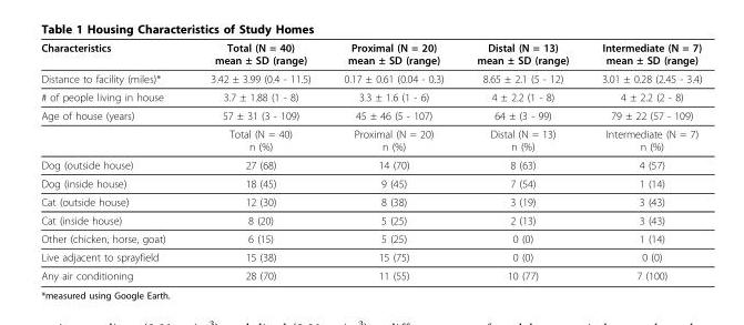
<table><thead><tr><td>Characteristics</td><td>Total (N = 40) mean ± SD (range)</td><td>Proximal (N = 20) mean ± SD (range)</td><td>Distal (N = 13) mean ± SD (range)</td><td>Intermediate (N = 7) mean ± SD (range)</td></tr></thead><tbody><tr><td>Distance to facility (miles)*</td><td>3.42 ± 3.99 (0.4 - 11.5)</td><td>0.17 ± 0.61 (0.04 - 0.3)</td><td>8.65 ± 2.1 (5 - 12)</td><td>3.01 ± 0.28 (2.45 - 3.4)</td></tr><tr><td># of people living in house</td><td>3.7 ± 1.88 (1 - 8)</td><td>3.3 ± 1.6 (1 - 6)</td><td>4 ± 2.2 (1 - 8)</td><td>4 ± 2.2 (2 - 8)</td></tr><tr><td rowspan="2">Age of house (years)</td><td>57 ± 31 (3 - 109)</td><td>45 ± 46 (5 - 107)</td><td>64 ± (3 - 99)</td><td>79 ± 22 (57 - 109)</td></tr><tr><td>Total (N = 40) n (%)</td><td>Proximal (N = 20) n (%)</td><td>Distal (N = 13) n (%)</td><td>Intermediate (N = 7) n (%)</td></tr><tr><td>Dog (outside house)</td><td>27 (68)</td><td>14 (70)</td><td>8 (63)</td><td>4 (57)</td></tr><tr><td>Dog (inside house)</td><td>18 (45)</td><td>9 (45)</td><td>7 (54)</td><td>1 (14)</td></tr><tr><td>Cat (outside house)</td><td>12 (30)</td><td>8 (38)</td><td>3 (19)</td><td>3 (43)</td></tr><tr><td>Cat (inside house)</td><td>8 (20)</td><td>5 (25)</td><td>2 (13)</td><td>3 (43)</td></tr><tr><td>Other (chicken, horse, goat)</td><td>6 (15)</td><td>5 (25)</td><td>0 (0)</td><td>1 (14)</td></tr><tr><td>Live adjacent to sprayfield</td><td>15 (38)</td><td>15 (75)</td><td>0 (0)</td><td>0 (0)</td></tr><tr><td>Any air conditioning</td><td>28 (70)</td><td>11 (55)</td><td>10 (77)</td><td>7 (100)</td></tr></tbody></table>